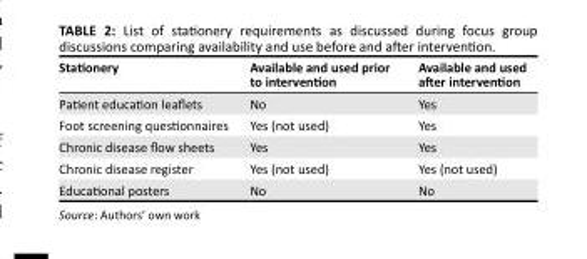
<table><thead><tr><td>Stationery</td><td>Available and used prior to intervention</td><td>Available and used after intervention</td></tr></thead><tbody><tr><td>Patient education leaflets</td><td>No</td><td>Yes</td></tr><tr><td>Foot screening questionnaires</td><td>Yes (not used)</td><td>Yes</td></tr><tr><td>Chronic disease flow sheets</td><td>Yes</td><td>Yes</td></tr><tr><td>Chronic disease register</td><td>Yes (not used)</td><td>Yes (not used)</td></tr><tr><td>Educational posters</td><td>No</td><td>No</td></tr></tbody></table>